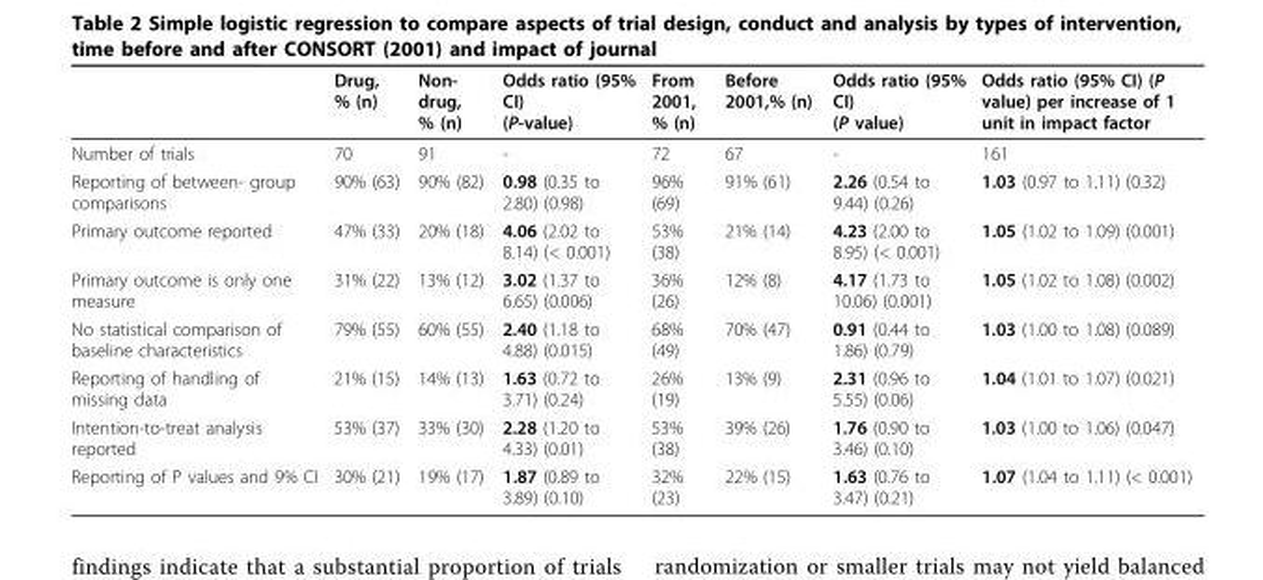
<table><thead><tr><td></td><td>Drug, % (n)</td><td>Non- drug, % (n)</td><td>Odds ratio (95% CI) (P-value)</td><td>From 2001, % (n)</td><td>Before 2001,% (n)</td><td>Odds ratio (95% CI) (P value)</td><td>Odds ratio (95% CI) (P value) per increase of 1 unit in impact factor</td></tr></thead><tbody><tr><td>Number of trials</td><td>70</td><td>91</td><td>-</td><td>72</td><td>67</td><td>-</td><td>161</td></tr><tr><td>Reporting of between- group comparisons</td><td>90% (63)</td><td>90% (82)</td><td>0.98 (0.35 to 2.80) (0.98)</td><td>96% (69)</td><td>91% (61)</td><td>2.26 (0.54 to 9.44) (0.26)</td><td>1.03 (0.97 to 1.11) (0.32)</td></tr><tr><td>Primary outcome reported</td><td>47% (33)</td><td>20% (18)</td><td>4.06 (2.02 to 8.14) (&lt; 0.001)</td><td>53% (38)</td><td>21% (14)</td><td>4.23 (2.00 to 8.95) (&lt; 0.001)</td><td>1.05 (1.02 to 1.09) (0.001)</td></tr><tr><td>Primary outcome is only one measure</td><td>31% (22)</td><td>13% (12)</td><td>3.02 (1.37 to 6.65) (0.006)</td><td>36% (26)</td><td>12% (8)</td><td>4.17 (1.73 to 10.06) (0.001)</td><td>1.05 (1.02 to 1.08) (0.002)</td></tr><tr><td>No statistical comparison of baseline characteristics</td><td>79% (55)</td><td>60% (55)</td><td>2.40 (1.18 to 4.88) (0.015)</td><td>68% (49)</td><td>70% (47)</td><td>0.91 (0.44 to 1.86) (0.79)</td><td>1.03 (1.00 to 1.08) (0.089)</td></tr><tr><td>Reporting of handling of missing data</td><td>21% (15)</td><td>14% (13)</td><td>1.63 (0.72 to 3.71) (0.24)</td><td>26% (19)</td><td>13% (9)</td><td>2.31 (0.96 to 5.55) (0.06)</td><td>1.04 (1.01 to 1.07) (0.021)</td></tr><tr><td>Intention-to-treat analysis reported</td><td>53% (37)</td><td>33% (30)</td><td>2.28 (1.20 to 4.33) (0.01)</td><td>53% (38)</td><td>39% (26)</td><td>1.76 (0.90 to 3.46) (0.10)</td><td>1.03 (1.00 to 1.06) (0.047)</td></tr><tr><td>Reporting of P values and 9% CI</td><td>30% (21)</td><td>19% (17)</td><td>1.87 (0.89 to 3.89) (0.10)</td><td>32% (23)</td><td>22% (15)</td><td>1.63 (0.76 to 3.47) (0.21)</td><td>1.07 (1.04 to 1.11) (&lt; 0.001)</td></tr></tbody></table>